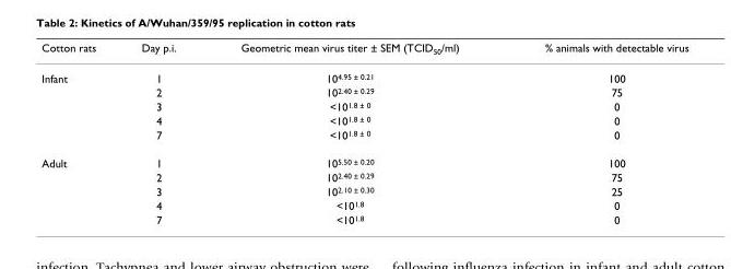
<table><thead><tr><td>Cotton rats</td><td>Day p.i.</td><td>Geometric mean virus titer ± SEM (TCID<sub>50</sub>/ml)</td><td>% animals with detectable virus</td></tr></thead><tbody><tr><td rowspan="5">Infant</td><td>1</td><td>10<sup>4.95 ± 0.21</sup></td><td>100</td></tr><tr><td>2</td><td>10<sup>2.40 ± 0.29</sup></td><td>75</td></tr><tr><td>3</td><td>&lt;10<sup>1.8 ± 0</sup></td><td>0</td></tr><tr><td>4</td><td>&lt;10<sup>1.8 ± 0</sup></td><td>0</td></tr><tr><td>7</td><td>&lt;10<sup>1.8 ± 0</sup></td><td>0</td></tr><tr><td rowspan="5">Adult</td><td>1</td><td>10<sup>5.50 ± 0.20</sup></td><td>100</td></tr><tr><td>2</td><td>10<sup>2.40 ± 0.29</sup></td><td>75</td></tr><tr><td>3</td><td>10<sup>2.10 ± 0.30</sup></td><td>25</td></tr><tr><td>4</td><td>&lt;10<sup>1.8</sup></td><td>0</td></tr><tr><td>7</td><td>&lt;10<sup>1.8</sup></td><td>0</td></tr></tbody></table>